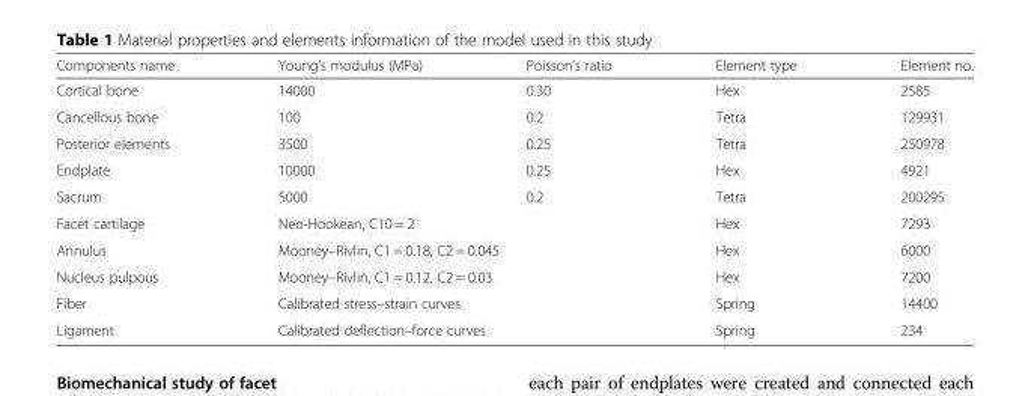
<table><thead><tr><td>Components name</td><td>Young’s modulus (MPa)</td><td>Poisson’s ratio</td><td>Element type</td><td>Element no.</td></tr></thead><tbody><tr><td>Cortical bone</td><td>14000</td><td>0.30</td><td>Hex</td><td>2585</td></tr><tr><td>Cancellous bone</td><td>100</td><td>0.2</td><td>Tetra</td><td>129931</td></tr><tr><td>Posterior elements</td><td>3500</td><td>0.25</td><td>Tetra</td><td>250978</td></tr><tr><td>Endplate</td><td>10000</td><td>0.25</td><td>Hex</td><td>4921</td></tr><tr><td>Sacrum</td><td>5000</td><td>0.2</td><td>Tetra</td><td>200295</td></tr><tr><td>Facet cartilage</td><td colspan="2">Neo-Hookean, C10 = 2</td><td>Hex</td><td>7293</td></tr><tr><td>Annulus</td><td colspan="2">Mooney–Rivlin, C1 = 0.18, C2 = 0.045</td><td>Hex</td><td>6000</td></tr><tr><td>Nucleus pulpous</td><td colspan="2">Mooney–Rivlin, C1 = 0.12, C2 = 0.03</td><td>Hex</td><td>7200</td></tr><tr><td>Fiber</td><td colspan="2">Calibrated stress–strain curves</td><td>Spring</td><td>14400</td></tr><tr><td>Ligament</td><td colspan="2">Calibrated deflection–force curves</td><td>Spring</td><td>234</td></tr></tbody></table>